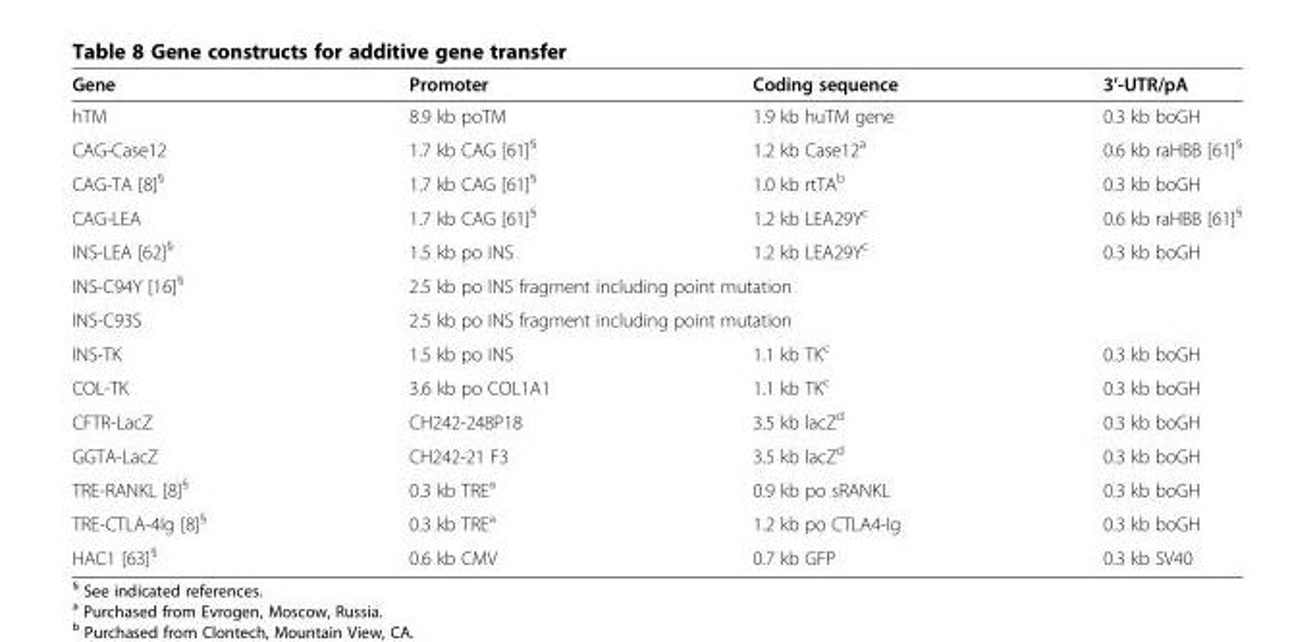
<table><thead><tr><td>Gene</td><td>Promoter</td><td>Coding sequence</td><td>3’-UTR/pA</td></tr></thead><tbody><tr><td>hTM</td><td>8.9 kb poTM</td><td>1.9 kb huTM gene</td><td>0.3 kb boGH</td></tr><tr><td>CAG-Case12</td><td>1.7 kb CAG [61]<sup>§</sup></td><td>1.2 kb Case12<sup>a</sup></td><td>0.6 kb raHBB [61]<sup>§</sup></td></tr><tr><td>CAG-TA [8]<sup>§</sup></td><td>1.7 kb CAG [61]<sup>§</sup></td><td>1.0 kb rtTA<sup>b</sup></td><td>0.3 kb boGH</td></tr><tr><td>CAG-LEA</td><td>1.7 kb CAG [61]<sup>§</sup></td><td>1.2 kb LEA29Y<sup>c</sup></td><td>0.6 kb raHBB [61]<sup>§</sup></td></tr><tr><td>INS-LEA [62]<sup>§</sup></td><td>1.5 kb po INS</td><td>1.2 kb LEA29Y<sup>c</sup></td><td>0.3 kb boGH</td></tr><tr><td>INS-C94Y [16]<sup>§</sup></td><td colspan="3">2.5 kb po INS fragment including point mutation</td></tr><tr><td>INS-C93S</td><td colspan="3">2.5 kb po INS fragment including point mutation</td></tr><tr><td>INS-TK</td><td>1.5 kb po INS</td><td>1.1 kb TK<sup>c</sup></td><td>0.3 kb boGH</td></tr><tr><td>COL-TK</td><td>3.6 kb po COL1A1</td><td>1.1 kb TK<sup>c</sup></td><td>0.3 kb boGH</td></tr><tr><td>CFTR-LacZ</td><td>CH242-248P18</td><td>3.5 kb lacZ<sup>d</sup></td><td>0.3 kb boGH</td></tr><tr><td>GGTA-LacZ</td><td>CH242-21 F3</td><td>3.5 kb lacZ<sup>d</sup></td><td>0.3 kb boGH</td></tr><tr><td>TRE-RANKL [8]<sup>§</sup></td><td>0.3 kb TRE<sup>a</sup></td><td>0.9 kb po sRANKL</td><td>0.3 kb boGH</td></tr><tr><td>TRE-CTLA-4Ig [8]<sup>§</sup></td><td>0.3 kb TRE<sup>a</sup></td><td>1.2 kb po CTLA4-Ig</td><td>0.3 kb boGH</td></tr><tr><td>HAC1 [63]<sup>§</sup></td><td>0.6 kb CMV</td><td>0.7 kb GFP</td><td>0.3 kb SV40</td></tr></tbody></table>